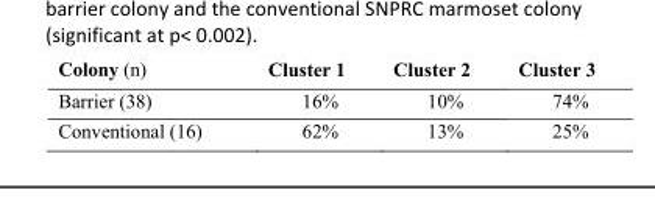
<table><thead><tr><td>Colony (n)</td><td>Cluster 1</td><td>Cluster 2</td><td>Cluster 3</td></tr></thead><tbody><tr><td>Barrier (38)</td><td>16%</td><td>10%</td><td>74%</td></tr><tr><td>Conventional (16)</td><td>62%</td><td>13%</td><td>25%</td></tr></tbody></table>